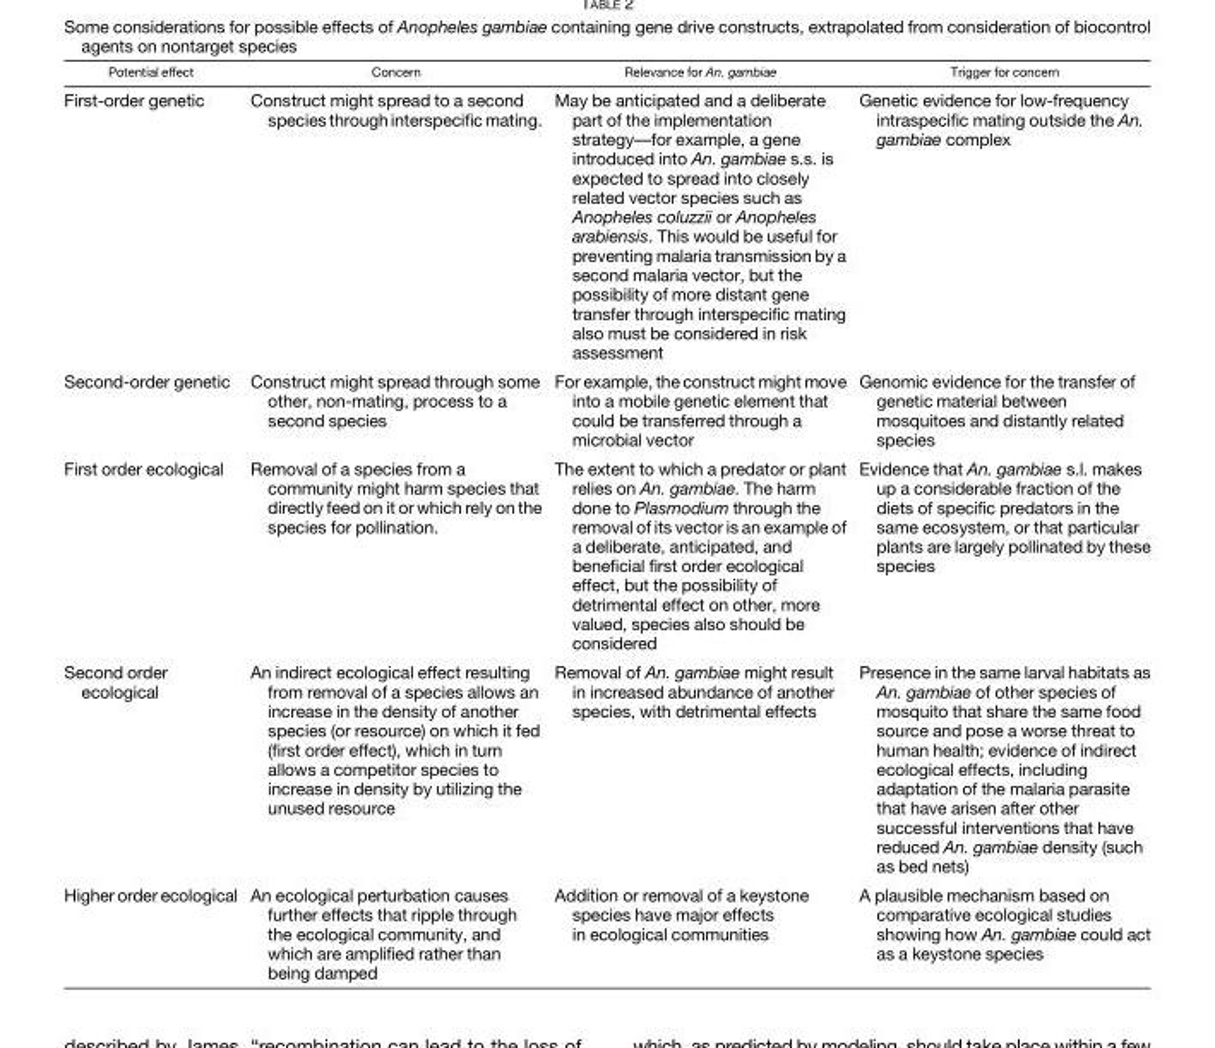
<table><thead><tr><td>Potential effect</td><td>Concern</td><td>Relevance for An. gambiae</td><td>Trigger for concern</td></tr></thead><tbody><tr><td>First-order genetic</td><td>Construct might spread to a second speciesthroughinterspecific mating.</td><td>May be anticipated and a deliberate part of the implementation strategy—for example, a gene introduced into An. gambiae s.s. is expected to spread into closely related vector species such as Anopheles coluzzii or Anopheles arabiensis. This would be useful for preventing malaria transmission by a second malaria vector, but the possibility of more distant gene transfer through interspecific mating also must be considered in risk assessment</td><td>Genetic evidence for low-frequency intraspecific mating outside the An. gambiae complex</td></tr><tr><td>Second-order genetic</td><td>Construct might spread through some other, non-mating, process to a second species</td><td>For example, the construct might move into a mobile genetic element that could be transferred through a microbial vector</td><td>Genomic evidence for the transfer of genetic material between mosquitoes and distantly related species</td></tr><tr><td>First order ecological</td><td>Removal of a species from a community might harm species that directly feed on it or which rely on the species for pollination.</td><td>The extent to which a predator or plant relies on An. gambiae. The harm done to Plasmodium through the removal of its vector is an example of a deliberate, anticipated, and beneficial first order ecological effect, but the possibility of detrimental effect on other, more valued, species also should be considered</td><td>Evidence that An. gambiae s.l. makes up a considerable fraction of the diets of specific predators in the same ecosystem, or that particular plants are largely pollinated by these species</td></tr><tr><td>Second order ecological</td><td>An indirect ecological effect resulting from removal of a species allows an increase in the density of another species (or resource) on which it fed (first order effect), which in turn allows a competitor species to increase in density by utilizing the unused resource</td><td>Removal of An. gambiae might result in increased abundance of another species, with detrimental effects</td><td>Presence in the same larval habitats as An. gambiae of other species of mosquito that share the same food source and pose a worse threat to human health; evidence of indirect ecological effects, including adaptation of the malaria parasite that have arisen after other successful interventions that have reduced An. gambiae density (such as bed nets)</td></tr><tr><td>Higher order ecological</td><td>An ecological perturbation causes further effects that ripple through the ecological community, and which are amplified rather than being damped</td><td>Addition or removal of a keystone species have major effects in ecological communities</td><td>A plausible mechanism based on comparative ecological studies showing how An. gambiae could act as a keystone species</td></tr></tbody></table>